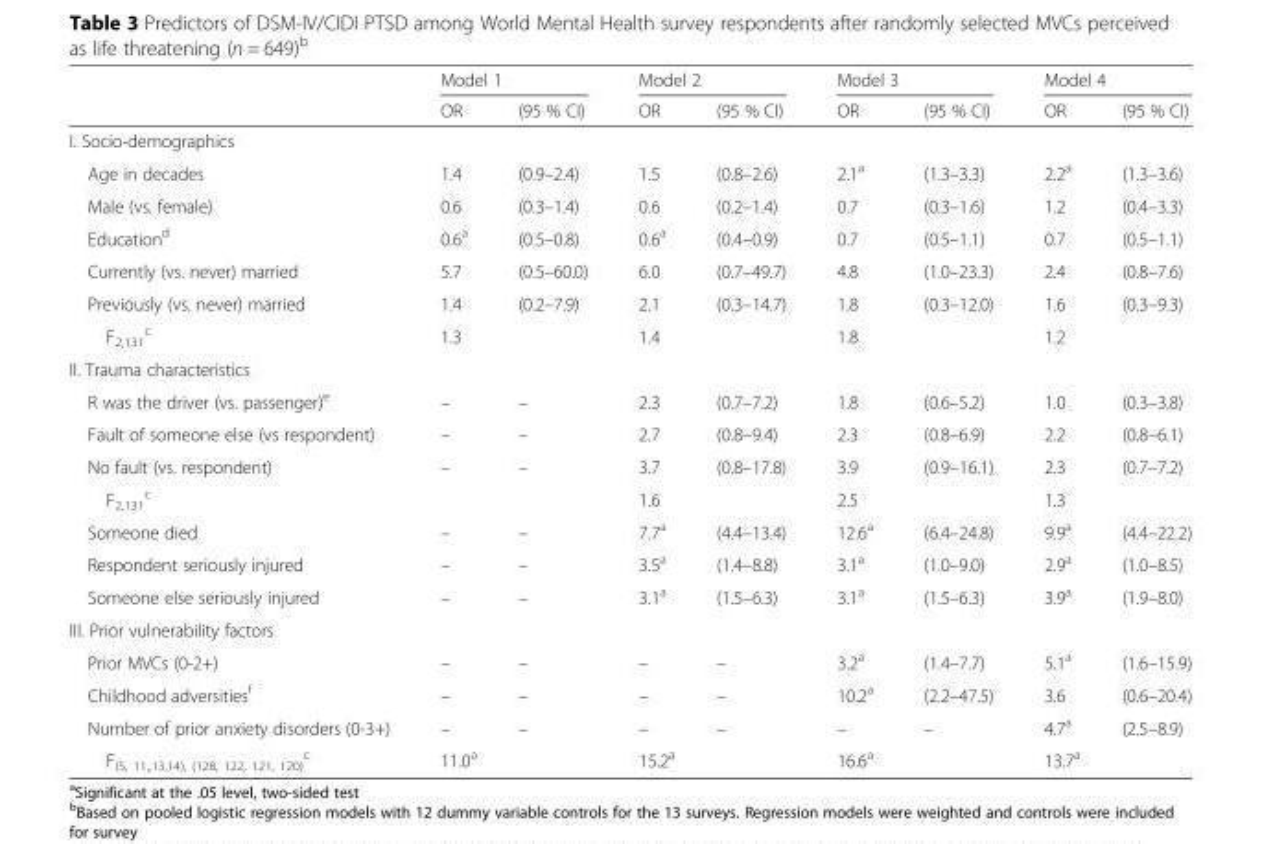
<table><thead><tr><td rowspan="2"></td><td colspan="2">Model 1</td><td colspan="2">Model 2</td><td colspan="2">Model 3</td><td colspan="2">Model 4</td></tr><tr><td>OR</td><td>(95 % CI)</td><td>OR</td><td>(95 % CI)</td><td>OR</td><td>(95 % CI)</td><td>OR</td><td>(95 % CI)</td></tr></thead><tbody><tr><td colspan="9">I. Socio-demographics</td></tr><tr><td>Age in decades</td><td>1.4</td><td>(0.9–2.4)</td><td>1.5</td><td>(0.8–2.6)</td><td>2.1<sup>a</sup></td><td>(1.3–3.3)</td><td>2.2<sup>a</sup></td><td>(1.3–3.6)</td></tr><tr><td>Male (vs. female)</td><td>0.6</td><td>(0.3–1.4)</td><td>0.6</td><td>(0.2–1.4)</td><td>0.7</td><td>(0.3–1.6)</td><td>1.2</td><td>(0.4–3.3)</td></tr><tr><td>Education<sup>d</sup></td><td>0.6<sup>a</sup></td><td>(0.5–0.8)</td><td>0.6<sup>a</sup></td><td>(0.4–0.9)</td><td>0.7</td><td>(0.5–1.1)</td><td>0.7</td><td>(0.5–1.1)</td></tr><tr><td>Currently (vs. never) married</td><td>5.7</td><td>(0.5–60.0)</td><td>6.0</td><td>(0.7–49.7)</td><td>4.8</td><td>(1.0–23.3)</td><td>2.4</td><td>(0.8–7.6)</td></tr><tr><td>Previously (vs. never) married</td><td>1.4</td><td>(0.2–7.9)</td><td>2.1</td><td>(0.3–14.7)</td><td>1.8</td><td>(0.3–12.0)</td><td>1.6</td><td>(0.3–9.3)</td></tr><tr><td>F<sub>2,131</sub> <sup>c</sup></td><td colspan="2">1.3</td><td colspan="2">1.4</td><td colspan="2">1.8</td><td colspan="2">1.2</td></tr><tr><td colspan="9">II. Trauma characteristics</td></tr><tr><td>R was the driver (vs. passenger)<sup>e</sup></td><td>–</td><td>–</td><td>2.3</td><td>(0.7–7.2)</td><td>1.8</td><td>(0.6–5.2)</td><td>1.0</td><td>(0.3–3.8)</td></tr><tr><td>Fault of someone else (vs respondent)</td><td>–</td><td>–</td><td>2.7</td><td>(0.8–9.4)</td><td>2.3</td><td>(0.8–6.9)</td><td>2.2</td><td>(0.8–6.1)</td></tr><tr><td>No fault (vs. respondent)</td><td>–</td><td>–</td><td>3.7</td><td>(0.8–17.8)</td><td>3.9</td><td>(0.9–16.1)</td><td>2.3</td><td>(0.7–7.2)</td></tr><tr><td>F<sub>2,131</sub> <sup>c</sup></td><td colspan="2"></td><td colspan="2">1.6</td><td colspan="2">2.5</td><td colspan="2">1.3</td></tr><tr><td>Someone died</td><td>–</td><td>–</td><td>7.7<sup>a</sup></td><td>(4.4–13.4)</td><td>12.6<sup>a</sup></td><td>(6.4–24.8)</td><td>9.9<sup>a</sup></td><td>(4.4–22.2)</td></tr><tr><td>Respondent seriously injured</td><td>–</td><td>–</td><td>3.5<sup>a</sup></td><td>(1.4–8.8)</td><td>3.1<sup>a</sup></td><td>(1.0–9.0)</td><td>2.9<sup>a</sup></td><td>(1.0–8.5)</td></tr><tr><td>Someone else seriously injured</td><td>–</td><td>–</td><td>3.1<sup>a</sup></td><td>(1.5–6.3)</td><td>3.1<sup>a</sup></td><td>(1.5–6.3)</td><td>3.9<sup>a</sup></td><td>(1.9–8.0)</td></tr><tr><td colspan="9">III. Prior vulnerability factors</td></tr><tr><td>Prior MVCs (0-2+)</td><td>–</td><td>–</td><td>–</td><td>–</td><td>3.2<sup>a</sup></td><td>(1.4–7.7)</td><td>5.1<sup>a</sup></td><td>(1.6–15.9)</td></tr><tr><td>Childhood adversities<sup>f</sup></td><td>–</td><td>–</td><td>–</td><td>–</td><td>10.2<sup>a</sup></td><td>(2.2–47.5)</td><td>3.6</td><td>(0.6–20.4)</td></tr><tr><td>Number of prior anxiety disorders (0-3+)</td><td>–</td><td>–</td><td>–</td><td>–</td><td>–</td><td>–</td><td>4.7<sup>a</sup></td><td>(2.5–8.9)</td></tr><tr><td>F<sub>(5, 11,,13,14), (128, 122, 121, 120)</sub> <sup>c</sup></td><td colspan="2">11.0<sup>a</sup></td><td colspan="2">15.2<sup>a</sup></td><td colspan="2">16.6<sup>a</sup></td><td colspan="2">13.7<sup>a</sup></td></tr></tbody></table>